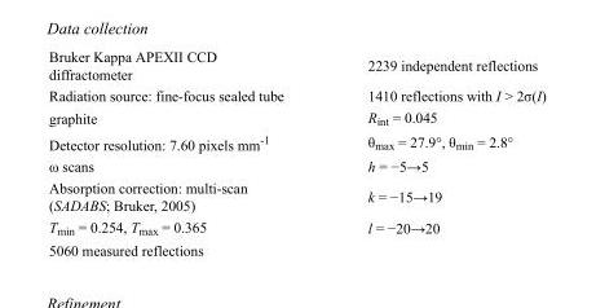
<table><tbody><tr><td>Bruker Kappa APEXII CCD diffractometer</td><td>2239 independent reflections</td></tr><tr><td>Radiation source: fine-focus sealed tube</td><td>1410 reflections with I &gt; 2σ(I)</td></tr><tr><td>graphite</td><td>R<sub>int</sub> = 0.045</td></tr><tr><td>Detector resolution: 7.60 pixels mm<sup>-1</sup></td><td>θ<sub>max</sub> = 27.9°, θ<sub>min</sub> = 2.8°</td></tr><tr><td>ω scans</td><td>h = −5→5</td></tr><tr><td>Absorption correction: multi-scan (SADABS; Bruker, 2005)</td><td>k = −15→19</td></tr><tr><td>T<sub>min</sub> = 0.254, T<sub>max</sub> = 0.365</td><td>l = −20→20</td></tr><tr><td>5060 measured reflections</td><td></td></tr></tbody></table>